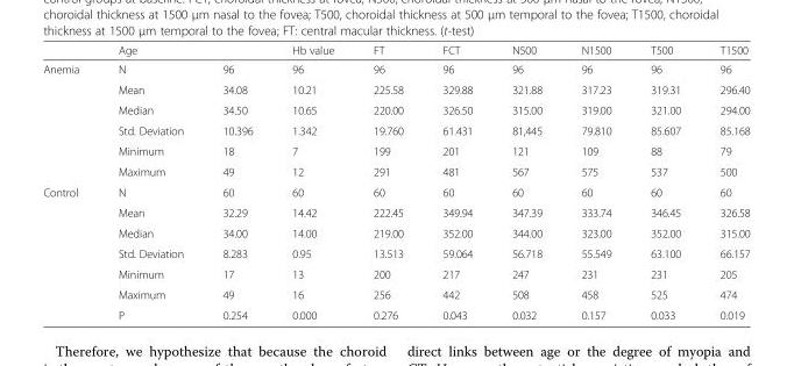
<table><thead><tr><td rowspan="2">Anemia</td><td colspan="2">Age</td><td rowspan="2">Hb value 96</td><td rowspan="2">FT 96</td><td rowspan="2">FCT 96</td><td rowspan="2">N500 96</td><td rowspan="2">N1500 96</td><td rowspan="2">T500 96</td><td rowspan="2">T1500 96</td></tr><tr><td>N</td><td>96</td></tr></thead><tbody><tr><td></td><td>Mean</td><td>34.08</td><td>10.21</td><td>225.58</td><td>329.88</td><td>321.88</td><td>317.23</td><td>319.31</td><td>296.40</td></tr><tr><td></td><td>Median</td><td>34.50</td><td>10.65</td><td>220.00</td><td>326.50</td><td>315.00</td><td>319.00</td><td>321.00</td><td>294.00</td></tr><tr><td></td><td>Std. Deviation</td><td>10.396</td><td>1.342</td><td>19.760</td><td>61.431</td><td>81,445</td><td>79.810</td><td>85.607</td><td>85.168</td></tr><tr><td></td><td>Minimum</td><td>18</td><td>7</td><td>199</td><td>201</td><td>121</td><td>109</td><td>88</td><td>79</td></tr><tr><td></td><td>Maximum</td><td>49</td><td>12</td><td>291</td><td>481</td><td>567</td><td>575</td><td>537</td><td>500</td></tr><tr><td rowspan="7">Control</td><td>N</td><td>60</td><td>60</td><td>60</td><td>60</td><td>60</td><td>60</td><td>60</td><td>60</td></tr><tr><td>Mean</td><td>32.29</td><td>14.42</td><td>222.45</td><td>349.94</td><td>347.39</td><td>333.74</td><td>346.45</td><td>326.58</td></tr><tr><td>Median</td><td>34.00</td><td>14.00</td><td>219.00</td><td>352.00</td><td>344.00</td><td>323.00</td><td>352.00</td><td>315.00</td></tr><tr><td>Std. Deviation</td><td>8.283</td><td>0.95</td><td>13.513</td><td>59.064</td><td>56.718</td><td>55.549</td><td>63.100</td><td>66.157</td></tr><tr><td>Minimum</td><td>17</td><td>13</td><td>200</td><td>217</td><td>247</td><td>231</td><td>231</td><td>205</td></tr><tr><td>Maximum</td><td>49</td><td>16</td><td>256</td><td>442</td><td>508</td><td>458</td><td>525</td><td>474</td></tr><tr><td>P</td><td>0.254</td><td>0.000</td><td>0.276</td><td>0.043</td><td>0.032</td><td>0.157</td><td>0.033</td><td>0.019</td></tr></tbody></table>